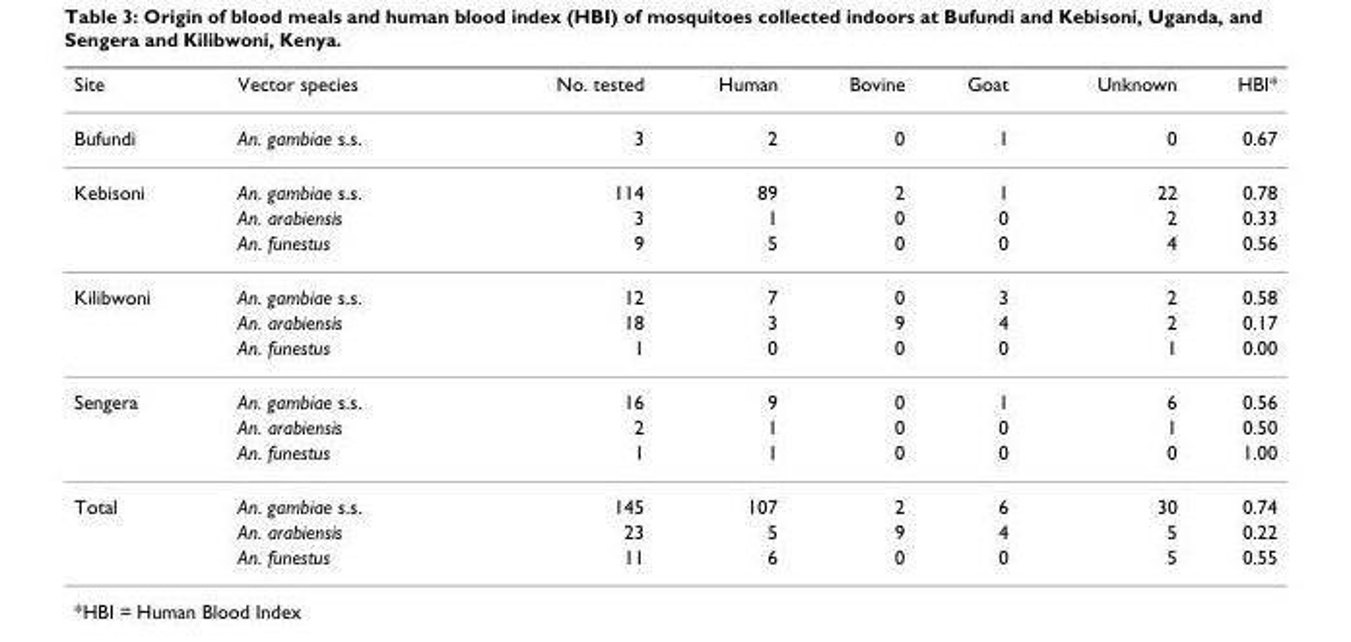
<table><thead><tr><td>Site</td><td>Vector species</td><td>No. tested</td><td>Human</td><td>Bovine</td><td>Goat</td><td>Unknown</td><td>HBI*</td></tr></thead><tbody><tr><td>Bufundi</td><td>An. gambiae s.s.</td><td>3</td><td>2</td><td>0</td><td>1</td><td>0</td><td>0.67</td></tr><tr><td rowspan="3">Kebisoni</td><td>An. gambiae s.s.</td><td>114</td><td>89</td><td>2</td><td>1</td><td>22</td><td>0.78</td></tr><tr><td>An. arabiensis</td><td>3</td><td>1</td><td>0</td><td>0</td><td>2</td><td>0.33</td></tr><tr><td>An. funestus</td><td>9</td><td>5</td><td>0</td><td>0</td><td>4</td><td>0.56</td></tr><tr><td rowspan="3">Kilibwoni</td><td>An. gambiae s.s.</td><td>12</td><td>7</td><td>0</td><td>3</td><td>2</td><td>0.58</td></tr><tr><td>An. arabiensis</td><td>18</td><td>3</td><td>9</td><td>4</td><td>2</td><td>0.17</td></tr><tr><td>An. funestus</td><td>1</td><td>0</td><td>0</td><td>0</td><td>1</td><td>0.00</td></tr><tr><td rowspan="3">Sengera</td><td>An. gambiae s.s.</td><td>16</td><td>9</td><td>0</td><td>1</td><td>6</td><td>0.56</td></tr><tr><td>An. arabiensis</td><td>2</td><td>1</td><td>0</td><td>0</td><td>1</td><td>0.50</td></tr><tr><td>An. funestus</td><td>1</td><td>1</td><td>0</td><td>0</td><td>0</td><td>1.00</td></tr><tr><td rowspan="3">Total</td><td>An. gambiae s.s.</td><td>145</td><td>107</td><td>2</td><td>6</td><td>30</td><td>0.74</td></tr><tr><td>An. arabiensis</td><td>23</td><td>5</td><td>9</td><td>4</td><td>5</td><td>0.22</td></tr><tr><td>An. funestus</td><td>11</td><td>6</td><td>0</td><td>0</td><td>5</td><td>0.55</td></tr></tbody></table>